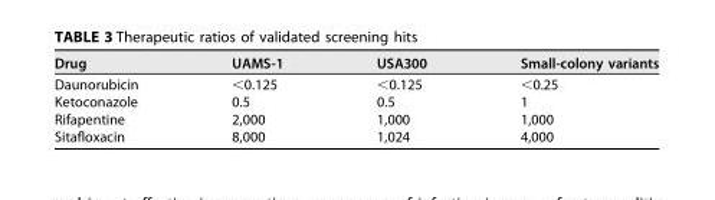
<table><thead><tr><td>Drug</td><td>UAMS-1</td><td>USA300</td><td>Small-colony variants</td></tr></thead><tbody><tr><td>Daunorubicin</td><td>&lt;0.125</td><td>&lt;0.125</td><td>&lt;0.25</td></tr><tr><td>Ketoconazole</td><td>0.5</td><td>0.5</td><td>1</td></tr><tr><td>Rifapentine</td><td>2,000</td><td>1,000</td><td>1,000</td></tr><tr><td>Sitafloxacin</td><td>8,000</td><td>1,024</td><td>4,000</td></tr></tbody></table>